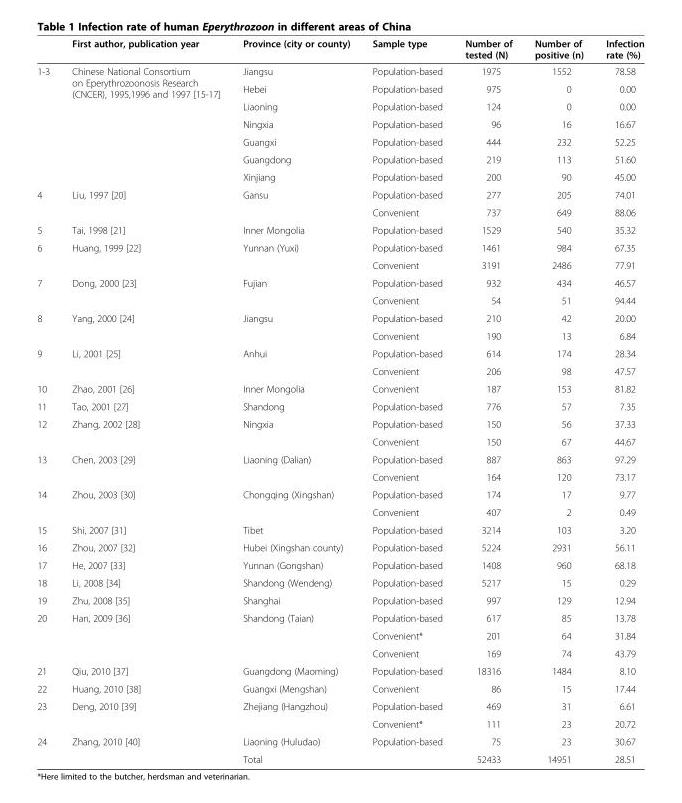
<table><thead><tr><td></td><td>First author, publication year</td><td>Province (city or county)</td><td>Sample type</td><td>Number of tested (N)</td><td>Number of positive (n)</td><td>Infection rate (%)</td></tr></thead><tbody><tr><td rowspan="7">1-3</td><td rowspan="7">Chinese National Consortium on Eperythrozoonosis Research (CNCER), 1995,1996 and 1997 [15-17]</td><td>Jiangsu</td><td>Population-based</td><td>1975</td><td>1552</td><td>78.58</td></tr><tr><td>Hebei</td><td>Population-based</td><td>975</td><td>0</td><td>0.00</td></tr><tr><td>Liaoning</td><td>Population-based</td><td>124</td><td>0</td><td>0.00</td></tr><tr><td>Ningxia</td><td>Population-based</td><td>96</td><td>16</td><td>16.67</td></tr><tr><td>Guangxi</td><td>Population-based</td><td>444</td><td>232</td><td>52.25</td></tr><tr><td>Guangdong</td><td>Population-based</td><td>219</td><td>113</td><td>51.60</td></tr><tr><td>Xinjiang</td><td>Population-based</td><td>200</td><td>90</td><td>45.00</td></tr><tr><td rowspan="2">4</td><td rowspan="2">Liu, 1997 [20]</td><td rowspan="2">Gansu</td><td>Population-based</td><td>277</td><td>205</td><td>74.01</td></tr><tr><td>Convenient</td><td>737</td><td>649</td><td>88.06</td></tr><tr><td>5</td><td>Tai, 1998 [21]</td><td>Inner Mongolia</td><td>Population-based</td><td>1529</td><td>540</td><td>35.32</td></tr><tr><td rowspan="2">6</td><td rowspan="2">Huang, 1999 [22]</td><td rowspan="2">Yunnan (Yuxi)</td><td>Population-based</td><td>1461</td><td>984</td><td>67.35</td></tr><tr><td>Convenient</td><td>3191</td><td>2486</td><td>77.91</td></tr><tr><td rowspan="2">7</td><td rowspan="2">Dong, 2000 [23]</td><td rowspan="2">Fujian</td><td>Population-based</td><td>932</td><td>434</td><td>46.57</td></tr><tr><td>Convenient</td><td>54</td><td>51</td><td>94.44</td></tr><tr><td rowspan="2">8</td><td rowspan="2">Yang, 2000 [24]</td><td rowspan="2">Jiangsu</td><td>Population-based</td><td>210</td><td>42</td><td>20.00</td></tr><tr><td>Convenient</td><td>190</td><td>13</td><td>6.84</td></tr><tr><td rowspan="2">9</td><td rowspan="2">Li, 2001 [25]</td><td rowspan="2">Anhui</td><td>Population-based</td><td>614</td><td>174</td><td>28.34</td></tr><tr><td>Convenient</td><td>206</td><td>98</td><td>47.57</td></tr><tr><td>10</td><td>Zhao, 2001 [26]</td><td>Inner Mongolia</td><td>Convenient</td><td>187</td><td>153</td><td>81.82</td></tr><tr><td>11</td><td>Tao, 2001 [27]</td><td>Shandong</td><td>Population-based</td><td>776</td><td>57</td><td>7.35</td></tr><tr><td rowspan="2">12</td><td rowspan="2">Zhang, 2002 [28]</td><td rowspan="2">Ningxia</td><td>Population-based</td><td>150</td><td>56</td><td>37.33</td></tr><tr><td>Convenient</td><td>150</td><td>67</td><td>44.67</td></tr><tr><td rowspan="2">13</td><td rowspan="2">Chen, 2003 [29]</td><td rowspan="2">Liaoning (Dalian)</td><td>Population-based</td><td>887</td><td>863</td><td>97.29</td></tr><tr><td>Convenient</td><td>164</td><td>120</td><td>73.17</td></tr><tr><td rowspan="2">14</td><td rowspan="2">Zhou, 2003 [30]</td><td rowspan="2">Chongqing (Xingshan)</td><td>Population-based</td><td>174</td><td>17</td><td>9.77</td></tr><tr><td>Convenient</td><td>407</td><td>2</td><td>0.49</td></tr><tr><td>15</td><td>Shi, 2007 [31]</td><td>Tibet</td><td>Population-based</td><td>3214</td><td>103</td><td>3.20</td></tr><tr><td>16</td><td>Zhou, 2007 [32]</td><td>Hubei (Xingshan county)</td><td>Population-based</td><td>5224</td><td>2931</td><td>56.11</td></tr><tr><td>17</td><td>He, 2007 [33]</td><td>Yunnan (Gongshan)</td><td>Population-based</td><td>1408</td><td>960</td><td>68.18</td></tr><tr><td>18</td><td>Li, 2008 [34]</td><td>Shandong (Wendeng)</td><td>Population-based</td><td>5217</td><td>15</td><td>0.29</td></tr><tr><td>19</td><td>Zhu, 2008 [35]</td><td>Shanghai</td><td>Population-based</td><td>997</td><td>129</td><td>12.94</td></tr><tr><td rowspan="3">20</td><td rowspan="3">Han, 2009 [36]</td><td rowspan="3">Shandong (Taian)</td><td>Population-based</td><td>617</td><td>85</td><td>13.78</td></tr><tr><td>Convenient*</td><td>201</td><td>64</td><td>31.84</td></tr><tr><td>Convenient</td><td>169</td><td>74</td><td>43.79</td></tr><tr><td>21</td><td>Qiu, 2010 [37]</td><td>Guangdong (Maoming)</td><td>Population-based</td><td>18316</td><td>1484</td><td>8.10</td></tr><tr><td>22</td><td>Huang, 2010 [38]</td><td>Guangxi (Mengshan)</td><td>Convenient</td><td>86</td><td>15</td><td>17.44</td></tr><tr><td rowspan="2">23</td><td rowspan="2">Deng, 2010 [39]</td><td rowspan="2">Zhejiang (Hangzhou)</td><td>Population-based</td><td>469</td><td>31</td><td>6.61</td></tr><tr><td>Convenient*</td><td>111</td><td>23</td><td>20.72</td></tr><tr><td rowspan="2">24</td><td>Zhang, 2010 [40]</td><td>Liaoning (Huludao)</td><td>Population-based</td><td>75</td><td>23</td><td>30.67</td></tr><tr><td></td><td>Total</td><td></td><td>52433</td><td>14951</td><td>28.51</td></tr></tbody></table>